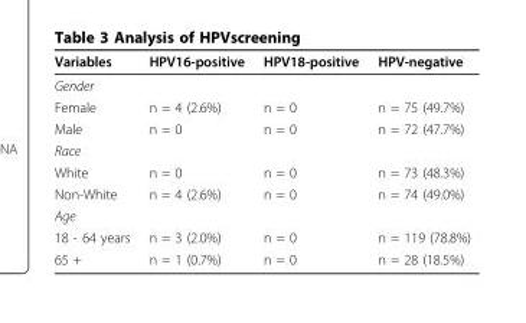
<table><thead><tr><td>Variables</td><td>HPV16-positive</td><td>HPV18-positive</td><td>HPV-negative</td></tr></thead><tbody><tr><td colspan="4">Gender</td></tr><tr><td>Female</td><td>n = 4 (2.6%)</td><td>n = 0</td><td>n = 75 (49.7%)</td></tr><tr><td>Male</td><td>n = 0</td><td>n = 0</td><td>n = 72 (47.7%)</td></tr><tr><td colspan="4">Race</td></tr><tr><td>White</td><td>n = 0</td><td>n = 0</td><td>n = 73 (48.3%)</td></tr><tr><td>Non-White</td><td>n = 4 (2.6%)</td><td>n = 0</td><td>n = 74 (49.0%)</td></tr><tr><td colspan="4">Age</td></tr><tr><td>18 - 64 years</td><td>n = 3 (2.0%)</td><td>n = 0</td><td>n = 119 (78.8%)</td></tr><tr><td>65 +</td><td>n = 1 (0.7%)</td><td>n = 0</td><td>n = 28 (18.5%)</td></tr></tbody></table>